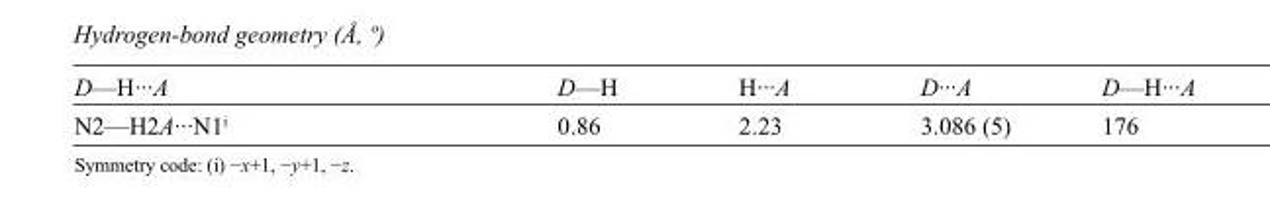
<table><tbody><tr><td>D—H···A</td><td>D—H</td><td>H···A</td><td>D···A</td><td>D—H···A</td></tr><tr><td>N2—H2A···N1<sup>i</sup></td><td>0.86</td><td>2.23</td><td>3.086 (5)</td><td>176</td></tr></tbody></table>